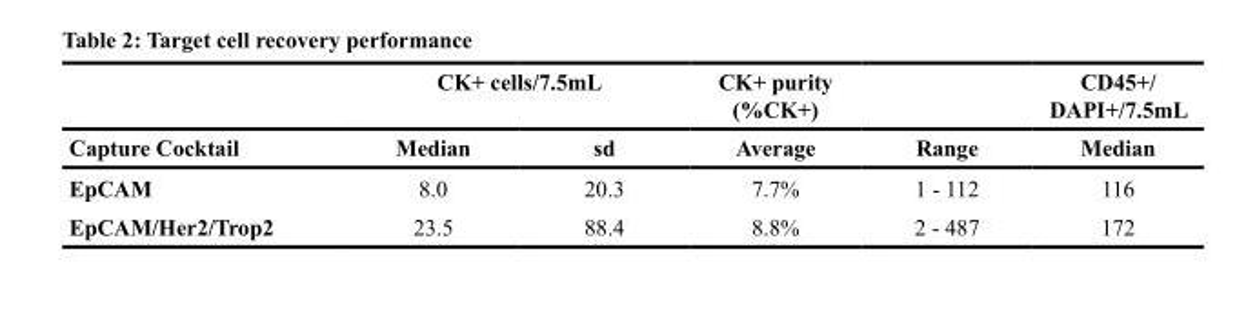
<table><thead><tr><td rowspan="2">Capture Cocktail</td><td colspan="2">CK+ cells/7.5mL</td><td rowspan="2">CK+ purity (%CK+) Average</td><td rowspan="2">Range</td><td rowspan="2">CD45+/ DAPI+/7.5mL Median</td></tr><tr><td>Median</td><td>sd</td></tr></thead><tbody><tr><td>EpCAM</td><td>8.0</td><td>20.3</td><td>7.7%</td><td>1 - 112</td><td>116</td></tr><tr><td>EpCAM/Her2/Trop2</td><td>23.5</td><td>88.4</td><td>8.8%</td><td>2 - 487</td><td>172</td></tr></tbody></table>